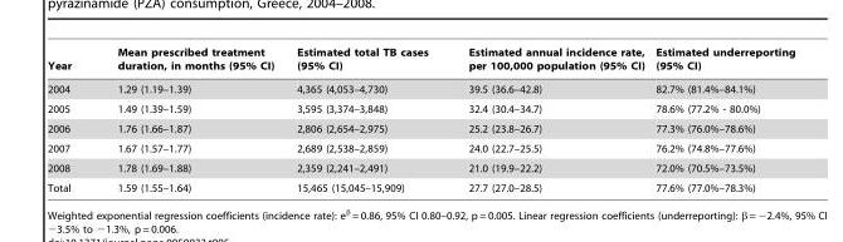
<table><thead><tr><td>Year</td><td>Mean prescribed treatment duration, in months (95% CI)</td><td>Estimated total TB cases (95% CI)</td><td>Estimated annual incidence rate, per 100,000 population (95% CI)</td><td>Estimated underreporting (95% CI)</td></tr></thead><tbody><tr><td>2004</td><td>1.29 (1.19–1.39)</td><td>4,365 (4,053–4,730)</td><td>39.5 (36.6–42.8)</td><td>82.7% (81.4%–84.1%)</td></tr><tr><td>2005</td><td>1.49 (1.39–1.59)</td><td>3,595 (3,374–3,848)</td><td>32.4 (30.4–34.7)</td><td>78.6% (77.2% - 80.0%)</td></tr><tr><td>2006</td><td>1.76 (1.66–1.87)</td><td>2,806 (2,654–2,975)</td><td>25.2 (23.8–26.7)</td><td>77.3% (76.0%–78.6%)</td></tr><tr><td>2007</td><td>1.67 (1.57–1.77)</td><td>2,689 (2,538–2,859)</td><td>24.0 (22.7–25.5)</td><td>76.2% (74.8%–77.6%)</td></tr><tr><td>2008</td><td>1.78 (1.69–1.88)</td><td>2,359 (2,241–2,491)</td><td>21.0 (19.9–22.2)</td><td>72.0% (70.5%–73.5%)</td></tr><tr><td>Total</td><td>1.59 (1.55–1.64)</td><td>15,465 (15,045–15,909)</td><td>27.7 (27.0–28.5)</td><td>77.6% (77.0%–78.3%)</td></tr></tbody></table>